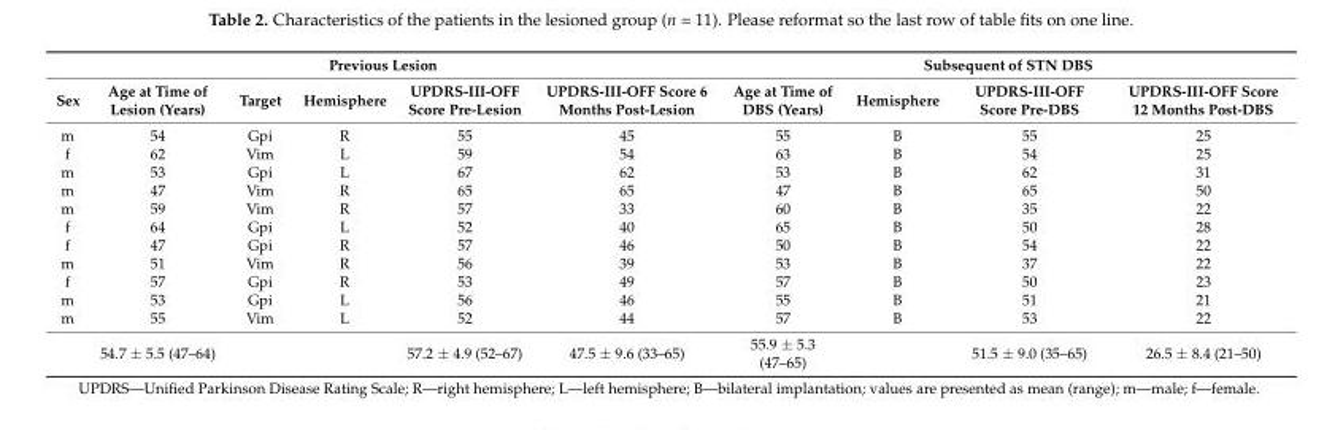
<table><thead><tr><td colspan="6">Previous Lesion</td><td colspan="4">Subsequent of STN DBS</td></tr><tr><td>Sex</td><td>Age at Time of Lesion (Years)</td><td>Target</td><td>Hemisphere</td><td>UPDRS-III-OFF Score Pre-Lesion</td><td>UPDRS-III-OFF Score 6 Months Post-Lesion</td><td>Age at Time of DBS (Years)</td><td>Hemisphere</td><td>UPDRS-III-OFF Score Pre-DBS</td><td>UPDRS-III-OFF Score 12 Months Post-DBS</td></tr></thead><tbody><tr><td>m</td><td>54</td><td>Gpi</td><td>R</td><td>55</td><td>45</td><td>55</td><td>B</td><td>55</td><td>25</td></tr><tr><td>f</td><td>62</td><td>Vim</td><td>L</td><td>59</td><td>54</td><td>63</td><td>B</td><td>54</td><td>25</td></tr><tr><td>m</td><td>53</td><td>Gpi</td><td>L</td><td>67</td><td>62</td><td>53</td><td>B</td><td>62</td><td>31</td></tr><tr><td>m</td><td>47</td><td>Vim</td><td>R</td><td>65</td><td>65</td><td>47</td><td>B</td><td>65</td><td>50</td></tr><tr><td>m</td><td>59</td><td>Vim</td><td>R</td><td>57</td><td>33</td><td>60</td><td>B</td><td>35</td><td>22</td></tr><tr><td>f</td><td>64</td><td>Gpi</td><td>L</td><td>52</td><td>40</td><td>65</td><td>B</td><td>50</td><td>28</td></tr><tr><td>f</td><td>47</td><td>Gpi</td><td>R</td><td>57</td><td>46</td><td>50</td><td>B</td><td>54</td><td>22</td></tr><tr><td>m</td><td>51</td><td>Vim</td><td>R</td><td>56</td><td>39</td><td>53</td><td>B</td><td>37</td><td>22</td></tr><tr><td>f</td><td>57</td><td>Gpi</td><td>R</td><td>53</td><td>49</td><td>57</td><td>B</td><td>50</td><td>23</td></tr><tr><td>m</td><td>53</td><td>Gpi</td><td>L</td><td>56</td><td>46</td><td>55</td><td>B</td><td>51</td><td>21</td></tr><tr><td rowspan="2">m</td><td>55</td><td>Vim</td><td>L</td><td>52</td><td>44</td><td>57</td><td>B</td><td>53</td><td>22</td></tr><tr><td>54.7 ± 5.5 (47–64)</td><td></td><td></td><td>57.2 ± 4.9 (52–67)</td><td>47.5 ± 9.6 (33–65)</td><td>55.9 ± 5.3 (47–65)</td><td></td><td>51.5 ± 9.0 (35–65)</td><td>26.5 ± 8.4 (21–50)</td></tr></tbody></table>